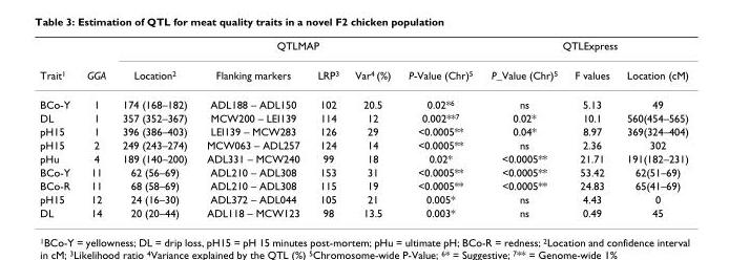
<table><thead><tr><td rowspan="2">Trait<sup>1</sup></td><td rowspan="2">GGA</td><td colspan="5">QTLMAP</td><td colspan="3">QTLExpress</td></tr><tr><td>Location<sup>2</sup></td><td>Flanking markers</td><td>LRP<sup>3</sup></td><td>Var<sup>4</sup> (%)</td><td>P-Value (Chr)<sup>5</sup></td><td>P_Value (Chr)<sup>5</sup></td><td>F values</td><td>Location (cM)</td></tr></thead><tbody><tr><td>BCo-Y</td><td>1</td><td>174 (168–182)</td><td>ADL188 – ADL150</td><td>102</td><td>20.5</td><td>0.02*<sup>6</sup></td><td>ns</td><td>5.13</td><td>49</td></tr><tr><td>DL</td><td>1</td><td>357 (352–367)</td><td>MCW200 – LEI139</td><td>114</td><td>12</td><td>0.002**<sup>7</sup></td><td>0.02*</td><td>10.1</td><td>560(454–565)</td></tr><tr><td>pH15</td><td>1</td><td>396 (386–403)</td><td>LEI139 – MCW283</td><td>126</td><td>29</td><td>&lt;0.0005**</td><td>0.04*</td><td>8.97</td><td>369(324–404)</td></tr><tr><td>pH15</td><td>2</td><td>249 (243–274)</td><td>MCW063 – ADL257</td><td>124</td><td>14</td><td>&lt;0.0005**</td><td>ns</td><td>2.36</td><td>302</td></tr><tr><td>pHu</td><td>4</td><td>189 (140–200)</td><td>ADL331 – MCW240</td><td>99</td><td>18</td><td>0.02*</td><td>&lt;0.0005**</td><td>21.71</td><td>191(182–231)</td></tr><tr><td>BCo-Y</td><td>11</td><td>62 (56–69)</td><td>ADL210 – ADL308</td><td>153</td><td>31</td><td>&lt;0.0005**</td><td>&lt;0.0005**</td><td>53.42</td><td>62(51–69)</td></tr><tr><td>BCo-R</td><td>11</td><td>68 (58–69)</td><td>ADL210 – ADL308</td><td>115</td><td>19</td><td>&lt;0.0005**</td><td>&lt;0.0005**</td><td>24.83</td><td>65(41–69)</td></tr><tr><td>pH15</td><td>12</td><td>24 (16–30)</td><td>ADL372 – ADL044</td><td>105</td><td>21</td><td>0.005*</td><td>ns</td><td>4.43</td><td>0</td></tr><tr><td>DL</td><td>14</td><td>20 (20–44)</td><td>ADL118 – MCW123</td><td>98</td><td>13.5</td><td>0.003*</td><td>ns</td><td>0.49</td><td>45</td></tr></tbody></table>